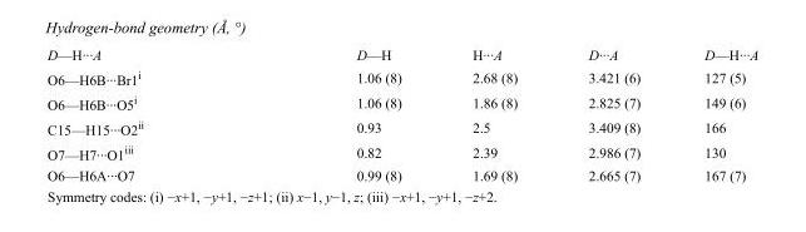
<table><tbody><tr><td>D—H···A</td><td>D—H</td><td>H···A</td><td>D···A</td><td>D—H···A</td></tr><tr><td>O6—H6B···Br1<sup>i</sup></td><td>1.06 (8)</td><td>2.68 (8)</td><td>3.421 (6)</td><td>127 (5)</td></tr><tr><td>O6—H6B···O5<sup>i</sup></td><td>1.06 (8)</td><td>1.86 (8)</td><td>2.825 (7)</td><td>149 (6)</td></tr><tr><td>C15—H15···O2<sup>ii</sup></td><td>0.93</td><td>2.5</td><td>3.409 (8)</td><td>166</td></tr><tr><td>O7—H7···O1<sup>iii</sup></td><td>0.82</td><td>2.39</td><td>2.986 (7)</td><td>130</td></tr><tr><td>O6—H6A···O7</td><td>0.99 (8)</td><td>1.69 (8)</td><td>2.665 (7)</td><td>167 (7)</td></tr></tbody></table>